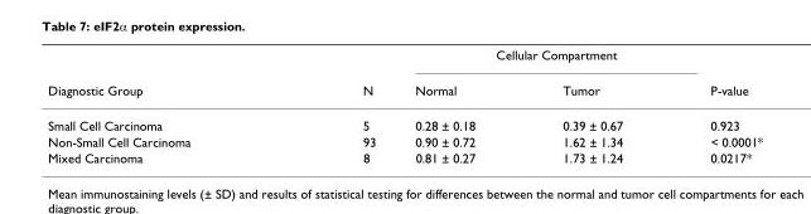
<table><thead><tr><td rowspan="2">Diagnostic Group</td><td rowspan="2">N</td><td colspan="2">Cellular Compartment</td><td rowspan="2">P-value</td></tr><tr><td>Normal</td><td>Tumor</td></tr></thead><tbody><tr><td>Small Cell Carcinoma</td><td>5</td><td>0.28 ± 0.18</td><td>0.39 ± 0.67</td><td>0.923</td></tr><tr><td>Non-Small Cell Carcinoma</td><td>93</td><td>0.90 ± 0.72</td><td>1.62 ± 1.34</td><td>&lt; 0.0001*</td></tr><tr><td>Mixed Carcinoma</td><td>8</td><td>0.81 ± 0.27</td><td>1.73 ± 1.24</td><td>0.0217*</td></tr></tbody></table>